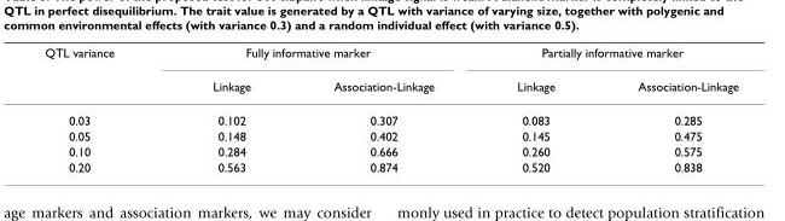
<table><thead><tr><td rowspan="2">QTL variance</td><td colspan="2">Fully informative marker</td><td colspan="2">Partially informative marker</td></tr><tr><td>Linkage</td><td>Association-Linkage</td><td>Linkage</td><td>Association-Linkage</td></tr></thead><tbody><tr><td>0.03</td><td>0.102</td><td>0.307</td><td>0.083</td><td>0.285</td></tr><tr><td>0.05</td><td>0.148</td><td>0.402</td><td>0.145</td><td>0.475</td></tr><tr><td>0.10</td><td>0.284</td><td>0.666</td><td>0.260</td><td>0.575</td></tr><tr><td>0.20</td><td>0.563</td><td>0.874</td><td>0.520</td><td>0.838</td></tr></tbody></table>